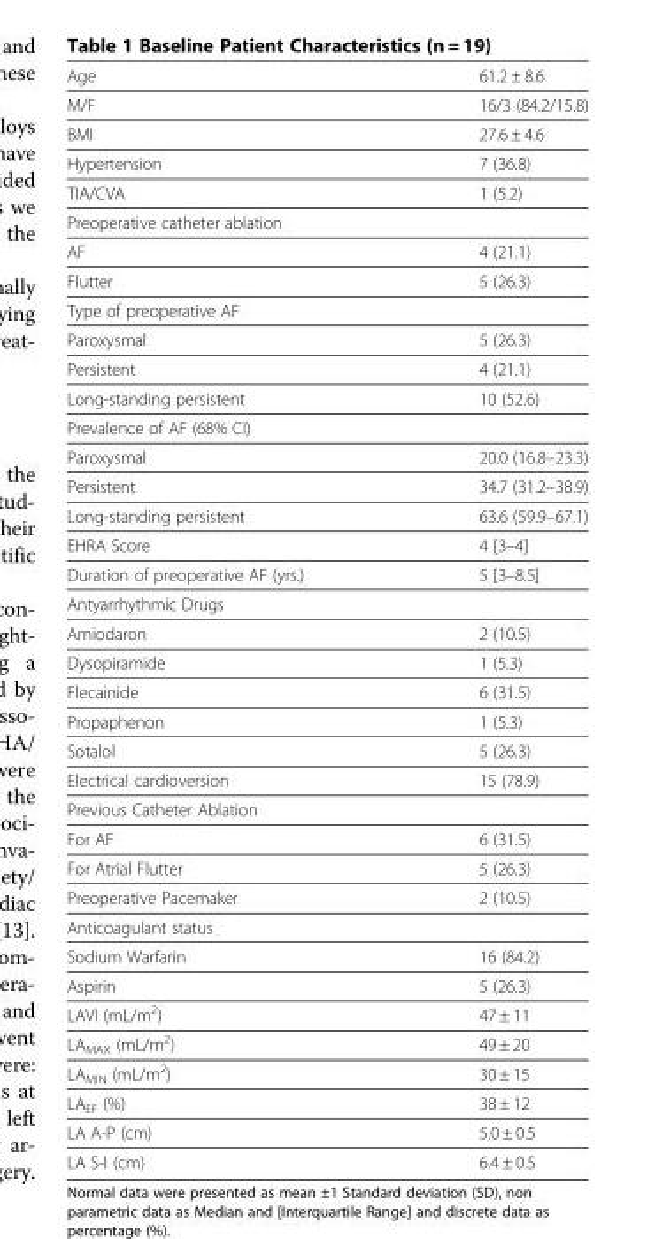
<table><thead><tr><td>Age</td><td>61.2 ± 8.6</td></tr></thead><tbody><tr><td>M/F</td><td>16/3 (84.2/15.8)</td></tr><tr><td>BMI</td><td>27.6 ± 4.6</td></tr><tr><td>Hypertension</td><td>7 (36.8)</td></tr><tr><td>TIA/CVA</td><td>1 (5.2)</td></tr><tr><td colspan="2">Preoperative catheter ablation</td></tr><tr><td>AF</td><td>4 (21.1)</td></tr><tr><td>Flutter</td><td>5 (26.3)</td></tr><tr><td colspan="2">Type of preoperative AF</td></tr><tr><td>Paroxysmal</td><td>5 (26.3)</td></tr><tr><td>Persistent</td><td>4 (21.1)</td></tr><tr><td>Long-standing persistent</td><td>10 (52.6)</td></tr><tr><td colspan="2">Prevalence of AF (68% CI)</td></tr><tr><td>Paroxysmal</td><td>20.0 (16.8–23.3)</td></tr><tr><td>Persistent</td><td>34.7 (31.2–38.9)</td></tr><tr><td>Long-standing persistent</td><td>63.6 (59.9–67.1)</td></tr><tr><td>EHRA Score</td><td>4 [3–4]</td></tr><tr><td>Duration of preoperative AF (yrs.)</td><td>5 [3–8.5]</td></tr><tr><td colspan="2">Antyarrhythmic Drugs</td></tr><tr><td>Amiodaron</td><td>2 (10.5)</td></tr><tr><td>Dysopiramide</td><td>1 (5.3)</td></tr><tr><td>Flecainide</td><td>6 (31.5)</td></tr><tr><td>Propaphenon</td><td>1 (5.3)</td></tr><tr><td>Sotalol</td><td>5 (26.3)</td></tr><tr><td>Electrical cardioversion</td><td>15 (78.9)</td></tr><tr><td colspan="2">Previous Catheter Ablation</td></tr><tr><td>For AF</td><td>6 (31.5)</td></tr><tr><td>For Atrial Flutter</td><td>5 (26.3)</td></tr><tr><td>Preoperative Pacemaker</td><td>2 (10.5)</td></tr><tr><td colspan="2">Anticoagulant status</td></tr><tr><td>Sodium Warfarin</td><td>16 (84.2)</td></tr><tr><td>Aspirin</td><td>5 (26.3)</td></tr><tr><td>LAVI (mL/m<sup>2</sup>)</td><td>47 ± 11</td></tr><tr><td>LA<sub>MAX</sub> (mL/m<sup>2</sup>)</td><td>49 ± 20</td></tr><tr><td>LA<sub>MIN</sub> (mL/m<sup>2</sup>)</td><td>30 ± 15</td></tr><tr><td>LA<sub>EF</sub> (%)</td><td>38 ± 12</td></tr><tr><td>LA A-P (cm)</td><td>5.0 ± 0.5</td></tr><tr><td>LA S-I (cm)</td><td>6.4 ± 0.5</td></tr></tbody></table>